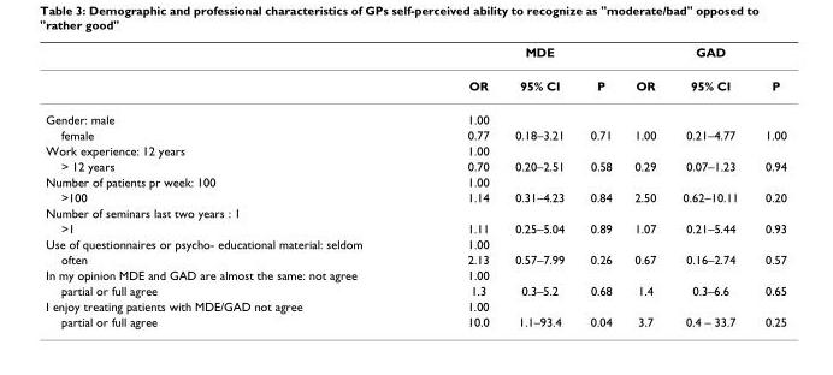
<table><thead><tr><td rowspan="2"></td><td colspan="3">MDE</td><td colspan="3">GAD</td></tr><tr><td>OR</td><td>95% CI</td><td>P</td><td>OR</td><td>95% CI</td><td>P</td></tr></thead><tbody><tr><td>Gender: male</td><td>1.00</td><td></td><td></td><td></td><td></td><td></td></tr><tr><td>female</td><td>0.77</td><td>0.18–3.21</td><td>0.71</td><td>1.00</td><td>0.21–4.77</td><td>1.00</td></tr><tr><td>Work experience: 12 years</td><td>1.00</td><td></td><td></td><td></td><td></td><td></td></tr><tr><td>&gt; 12 years</td><td>0.70</td><td>0.20–2.51</td><td>0.58</td><td>0.29</td><td>0.07–1.23</td><td>0.94</td></tr><tr><td>Number of patients pr week: 100</td><td>1.00</td><td></td><td></td><td></td><td></td><td></td></tr><tr><td>&gt;100</td><td>1.14</td><td>0.31–4.23</td><td>0.84</td><td>2.50</td><td>0.62–10.11</td><td>0.20</td></tr><tr><td colspan="7">Number of seminars last two years : 1</td></tr><tr><td>&gt;1</td><td>1.11</td><td>0.25–5.04</td><td>0.89</td><td>1.07</td><td>0.21–5.44</td><td>0.93</td></tr><tr><td>Use of questionnaires or psycho- educational material: seldom</td><td>1.00</td><td></td><td></td><td></td><td></td><td></td></tr><tr><td>often</td><td>2.13</td><td>0.57–7.99</td><td>0.26</td><td>0.67</td><td>0.16–2.74</td><td>0.57</td></tr><tr><td>In my opinion MDE and GAD are almost the same: not agree</td><td>1.00</td><td></td><td></td><td></td><td></td><td></td></tr><tr><td>partial or full agree</td><td>1.3</td><td>0.3–5.2</td><td>0.68</td><td>1.4</td><td>0.3–6.6</td><td>0.65</td></tr><tr><td>I enjoy treating patients with MDE/GAD not agree</td><td>1.00</td><td></td><td></td><td></td><td></td><td></td></tr><tr><td>partial or full agree</td><td>10.0</td><td>1.1–93.4</td><td>0.04</td><td>3.7</td><td>0.4 – 33.7</td><td>0.25</td></tr></tbody></table>